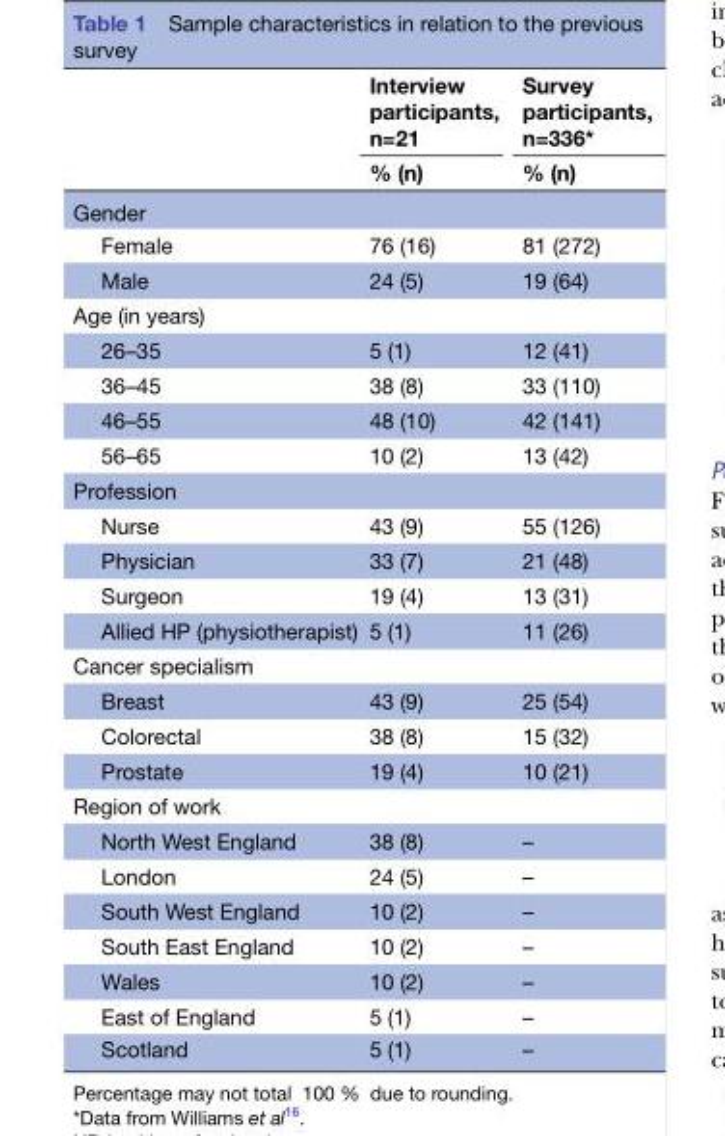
<table><thead><tr><td rowspan="2"></td><td rowspan="2">Interview participants, n=21 % (n)</td><td rowspan="2">Survey participants, n=336* % (n)</td></tr><tr></tr></thead><tbody><tr><td colspan="3">Gender</td></tr><tr><td>Female</td><td>76 (16)</td><td>81 (272)</td></tr><tr><td>Male</td><td>24 (5)</td><td>19 (64)</td></tr><tr><td colspan="3">Age (in years)</td></tr><tr><td>26–35</td><td>5 (1)</td><td>12 (41)</td></tr><tr><td>36–45</td><td>38 (8)</td><td>33 (110)</td></tr><tr><td>46–55</td><td>48 (10)</td><td>42 (141)</td></tr><tr><td>56–65</td><td>10 (2)</td><td>13 (42)</td></tr><tr><td colspan="3">Profession</td></tr><tr><td>Nurse</td><td>43 (9)</td><td>55 (126)</td></tr><tr><td>Physician</td><td>33 (7)</td><td>21 (48)</td></tr><tr><td>Surgeon</td><td>19 (4)</td><td>13 (31)</td></tr><tr><td>Allied HP (physiotherapist)</td><td>5 (1)</td><td>11 (26)</td></tr><tr><td colspan="3">Cancer specialism</td></tr><tr><td>Breast</td><td>43 (9)</td><td>25 (54)</td></tr><tr><td>Colorectal</td><td>38 (8)</td><td>15 (32)</td></tr><tr><td>Prostate</td><td>19 (4)</td><td>10 (21)</td></tr><tr><td colspan="3">Region of work</td></tr><tr><td>North West England</td><td>38 (8)</td><td>–</td></tr><tr><td>London</td><td>24 (5)</td><td>–</td></tr><tr><td>South West England</td><td>10 (2)</td><td>–</td></tr><tr><td>South East England</td><td>10 (2)</td><td>–</td></tr><tr><td>Wales</td><td>10 (2)</td><td>–</td></tr><tr><td>East of England</td><td>5 (1)</td><td>–</td></tr><tr><td>Scotland</td><td>5 (1)</td><td>–</td></tr></tbody></table>